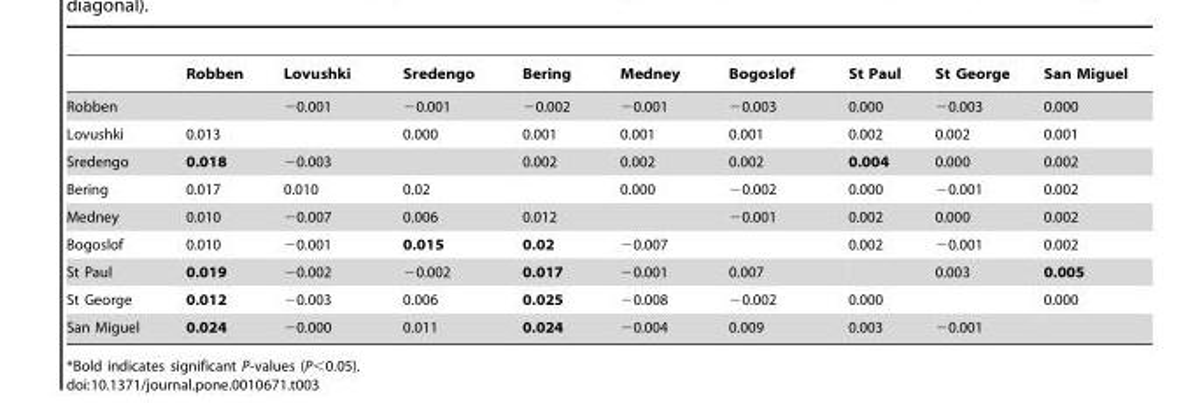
<table><thead><tr><td></td><td>Robben</td><td>Lovushki</td><td>Sredengo</td><td>Bering</td><td>Medney</td><td>Bogoslof</td><td>St Paul</td><td>St George</td><td>San Miguel</td></tr></thead><tbody><tr><td>Robben</td><td></td><td>−0.001</td><td>−0.001</td><td>−0.002</td><td>−0.001</td><td>−0.003</td><td>0.000</td><td>−0.003</td><td>0.000</td></tr><tr><td>Lovushki</td><td>0.013</td><td></td><td>0.000</td><td>0.001</td><td>0.001</td><td>0.001</td><td>0.002</td><td>0.002</td><td>0.001</td></tr><tr><td>Sredengo</td><td>0.018</td><td>−0.003</td><td></td><td>0.002</td><td>0.002</td><td>0.002</td><td>0.004</td><td>0.000</td><td>0.002</td></tr><tr><td>Bering</td><td>0.017</td><td>0.010</td><td>0.02</td><td></td><td>0.000</td><td>−0.002</td><td>0.000</td><td>−0.001</td><td>0.002</td></tr><tr><td>Medney</td><td>0.010</td><td>−0.007</td><td>0.006</td><td>0.012</td><td></td><td>−0.001</td><td>0.002</td><td>0.000</td><td>0.002</td></tr><tr><td>Bogoslof</td><td>0.010</td><td>−0.001</td><td>0.015</td><td>0.02</td><td>−0.007</td><td></td><td>0.002</td><td>−0.001</td><td>0.002</td></tr><tr><td>St Paul</td><td>0.019</td><td>−0.002</td><td>−0.002</td><td>0.017</td><td>−0.001</td><td>0.007</td><td></td><td>0.003</td><td>0.005</td></tr><tr><td>St George</td><td>0.012</td><td>−0.003</td><td>0.006</td><td>0.025</td><td>−0.008</td><td>−0.002</td><td>0.000</td><td></td><td>0.000</td></tr><tr><td>San Miguel</td><td>0.024</td><td>−0.000</td><td>0.011</td><td>0.024</td><td>−0.004</td><td>0.009</td><td>0.003</td><td>−0.001</td><td></td></tr></tbody></table>